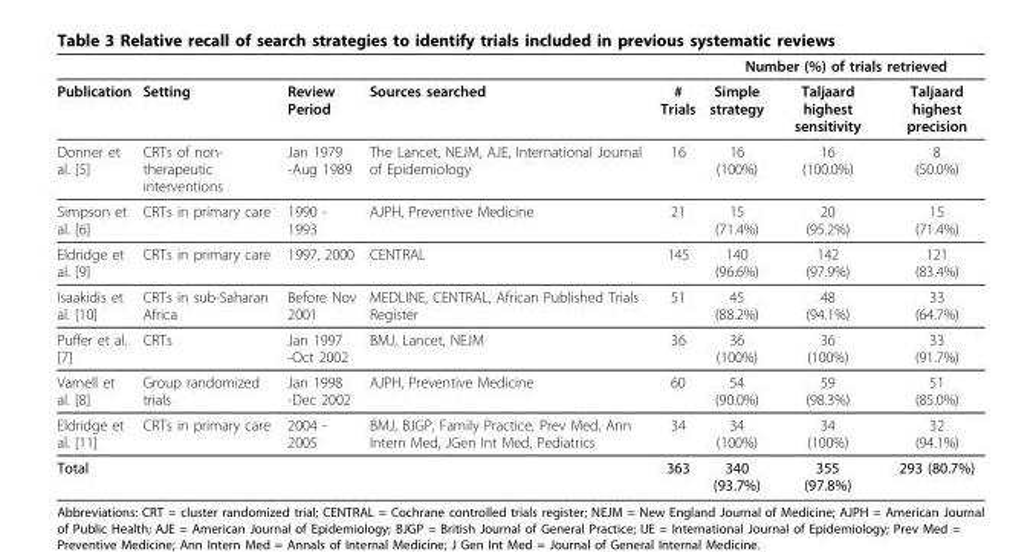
<table><thead><tr><td rowspan="2">Publication</td><td rowspan="2">Setting</td><td rowspan="2">Review Period</td><td rowspan="2">Sources searched</td><td rowspan="2"># Trials</td><td colspan="3">Number (%) of trials retrieved</td></tr><tr><td>Simple strategy</td><td>Taljaard highest sensitivity</td><td>Taljaard highest precision</td></tr></thead><tbody><tr><td>Donner et al. [5]</td><td>CRTs of non- therapeutic interventions</td><td>Jan 1979 -Aug 1989</td><td>The Lancet, NEJM, AJE, International Journal of Epidemiology</td><td>16</td><td>16 (100%)</td><td>16 (100.0%)</td><td>8 (50.0%)</td></tr><tr><td>Simpson et al. [6]</td><td>CRTs in primary care</td><td>1990 - 1993</td><td>AJPH, Preventive Medicine</td><td>21</td><td>15 (71.4%)</td><td>20 (95.2%)</td><td>15 (71.4%)</td></tr><tr><td>Eldridge et al. [9]</td><td>CRTs in primary care</td><td>1997, 2000</td><td>CENTRAL</td><td>145</td><td>140 (96.6%)</td><td>142 (97.9%)</td><td>121 (83.4%)</td></tr><tr><td>Isaakidis et al. [10]</td><td>CRTs in sub-Saharan Africa</td><td>Before Nov 2001</td><td>MEDLINE, CENTRAL, African Published Trials Register</td><td>51</td><td>45 (88.2%)</td><td>48 (94.1%)</td><td>33 (64.7%)</td></tr><tr><td>Puffer et al. [7]</td><td>CRTs</td><td>Jan 1997 -Oct 2002</td><td>BMJ, Lancet, NEJM</td><td>36</td><td>36 (100%)</td><td>36 (100%)</td><td>33 (91.7%)</td></tr><tr><td>Varnell et al. [8]</td><td>Group randomized trials</td><td>Jan 1998 -Dec 2002</td><td>AJPH, Preventive Medicine</td><td>60</td><td>54 (90.0%)</td><td>59 (98.3%)</td><td>51 (85.0%)</td></tr><tr><td>Eldridge et al. [11]</td><td>CRTs in primary care</td><td>2004 - 2005</td><td>BMJ, BJGP, Family Practice, Prev Med, Ann Intern Med, JGen Int Med, Pediatrics</td><td>34</td><td>34 (100%)</td><td>34 (100%)</td><td>32 (94.1%)</td></tr><tr><td>Total</td><td></td><td></td><td></td><td>363</td><td>340 (93.7%)</td><td>355 (97.8%)</td><td>293 (80.7%)</td></tr></tbody></table>